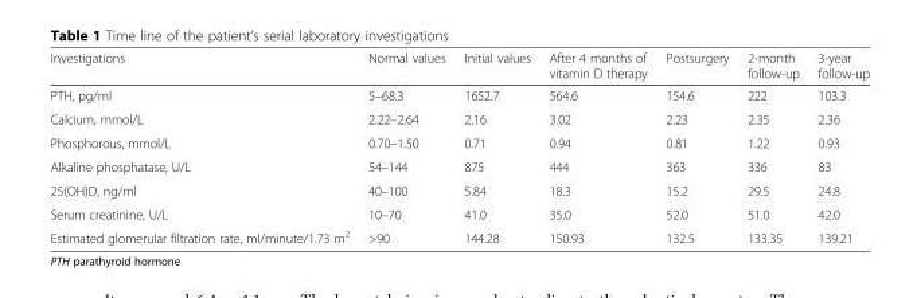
<table><thead><tr><td>Investigations</td><td>Normal values</td><td>Initial values</td><td>After 4 months of vitamin D therapy</td><td>Postsurgery</td><td>2-month follow-up</td><td>3-year follow-up</td></tr></thead><tbody><tr><td>PTH, pg/ml</td><td>5–68.3</td><td>1652.7</td><td>564.6</td><td>154.6</td><td>222</td><td>103.3</td></tr><tr><td>Calcium, mmol/L</td><td>2.22–2.64</td><td>2.16</td><td>3.02</td><td>2.23</td><td>2.35</td><td>2.36</td></tr><tr><td>Phosphorous, mmol/L</td><td>0.70–1.50</td><td>0.71</td><td>0.94</td><td>0.81</td><td>1.22</td><td>0.93</td></tr><tr><td>Alkaline phosphatase, U/L</td><td>54–144</td><td>875</td><td>444</td><td>363</td><td>336</td><td>83</td></tr><tr><td>25(OH)D, ng/ml</td><td>40–100</td><td>5.84</td><td>18.3</td><td>15.2</td><td>29.5</td><td>24.8</td></tr><tr><td>Serum creatinine, U/L</td><td>10–70</td><td>41.0</td><td>35.0</td><td>52.0</td><td>51.0</td><td>42.0</td></tr><tr><td>Estimated glomerular filtration rate, ml/minute/1.73 m<sup>2</sup></td><td>&gt;90</td><td>144.28</td><td>150.93</td><td>132.5</td><td>133.35</td><td>139.21</td></tr></tbody></table>